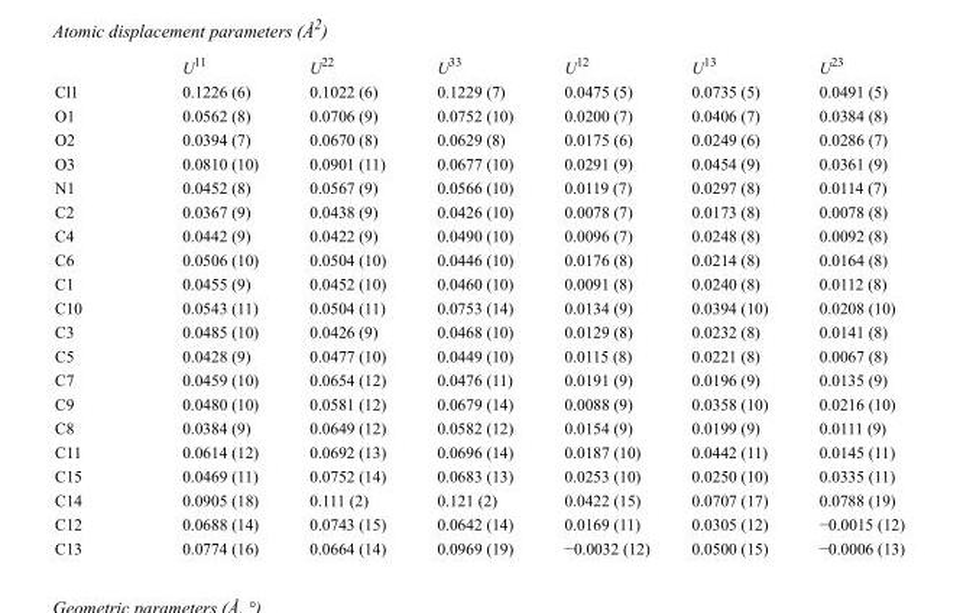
<table><thead><tr><td></td><td>U<sup>11</sup></td><td>U<sup>22</sup></td><td>U<sup>33</sup></td><td>U<sup>12</sup></td><td>U<sup>13</sup></td><td>U<sup>23</sup></td></tr></thead><tbody><tr><td>Cl1</td><td>0.1226 (6)</td><td>0.1022 (6)</td><td>0.1229 (7)</td><td>0.0475 (5)</td><td>0.0735 (5)</td><td>0.0491 (5)</td></tr><tr><td>O1</td><td>0.0562 (8)</td><td>0.0706 (9)</td><td>0.0752 (10)</td><td>0.0200 (7)</td><td>0.0406 (7)</td><td>0.0384 (8)</td></tr><tr><td>O2</td><td>0.0394 (7)</td><td>0.0670 (8)</td><td>0.0629 (8)</td><td>0.0175 (6)</td><td>0.0249 (6)</td><td>0.0286 (7)</td></tr><tr><td>O3</td><td>0.0810 (10)</td><td>0.0901 (11)</td><td>0.0677 (10)</td><td>0.0291 (9)</td><td>0.0454 (9)</td><td>0.0361 (9)</td></tr><tr><td>N1</td><td>0.0452 (8)</td><td>0.0567 (9)</td><td>0.0566 (10)</td><td>0.0119 (7)</td><td>0.0297 (8)</td><td>0.0114 (7)</td></tr><tr><td>C2</td><td>0.0367 (9)</td><td>0.0438 (9)</td><td>0.0426 (10)</td><td>0.0078 (7)</td><td>0.0173 (8)</td><td>0.0078 (8)</td></tr><tr><td>C4</td><td>0.0442 (9)</td><td>0.0422 (9)</td><td>0.0490 (10)</td><td>0.0096 (7)</td><td>0.0248 (8)</td><td>0.0092 (8)</td></tr><tr><td>C6</td><td>0.0506 (10)</td><td>0.0504 (10)</td><td>0.0446 (10)</td><td>0.0176 (8)</td><td>0.0214 (8)</td><td>0.0164 (8)</td></tr><tr><td>C1</td><td>0.0455 (9)</td><td>0.0452 (10)</td><td>0.0460 (10)</td><td>0.0091 (8)</td><td>0.0240 (8)</td><td>0.0112 (8)</td></tr><tr><td>C10</td><td>0.0543 (11)</td><td>0.0504 (11)</td><td>0.0753 (14)</td><td>0.0134 (9)</td><td>0.0394 (10)</td><td>0.0208 (10)</td></tr><tr><td>C3</td><td>0.0485 (10)</td><td>0.0426 (9)</td><td>0.0468 (10)</td><td>0.0129 (8)</td><td>0.0232 (8)</td><td>0.0141 (8)</td></tr><tr><td>C5</td><td>0.0428 (9)</td><td>0.0477 (10)</td><td>0.0449 (10)</td><td>0.0115 (8)</td><td>0.0221 (8)</td><td>0.0067 (8)</td></tr><tr><td>C7</td><td>0.0459 (10)</td><td>0.0654 (12)</td><td>0.0476 (11)</td><td>0.0191 (9)</td><td>0.0196 (9)</td><td>0.0135 (9)</td></tr><tr><td>C9</td><td>0.0480 (10)</td><td>0.0581 (12)</td><td>0.0679 (14)</td><td>0.0088 (9)</td><td>0.0358 (10)</td><td>0.0216 (10)</td></tr><tr><td>C8</td><td>0.0384 (9)</td><td>0.0649 (12)</td><td>0.0582 (12)</td><td>0.0154 (9)</td><td>0.0199 (9)</td><td>0.0111 (9)</td></tr><tr><td>C11</td><td>0.0614 (12)</td><td>0.0692 (13)</td><td>0.0696 (14)</td><td>0.0187 (10)</td><td>0.0442 (11)</td><td>0.0145 (11)</td></tr><tr><td>C15</td><td>0.0469 (11)</td><td>0.0752 (14)</td><td>0.0683 (13)</td><td>0.0253 (10)</td><td>0.0250 (10)</td><td>0.0335 (11)</td></tr><tr><td>C14</td><td>0.0905 (18)</td><td>0.111 (2)</td><td>0.121 (2)</td><td>0.0422 (15)</td><td>0.0707 (17)</td><td>0.0788 (19)</td></tr><tr><td>C12</td><td>0.0688 (14)</td><td>0.0743 (15)</td><td>0.0642 (14)</td><td>0.0169 (11)</td><td>0.0305 (12)</td><td>−0.0015 (12)</td></tr><tr><td>C13</td><td>0.0774 (16)</td><td>0.0664 (14)</td><td>0.0969 (19)</td><td>−0.0032 (12)</td><td>0.0500 (15)</td><td>−0.0006 (13)</td></tr></tbody></table>